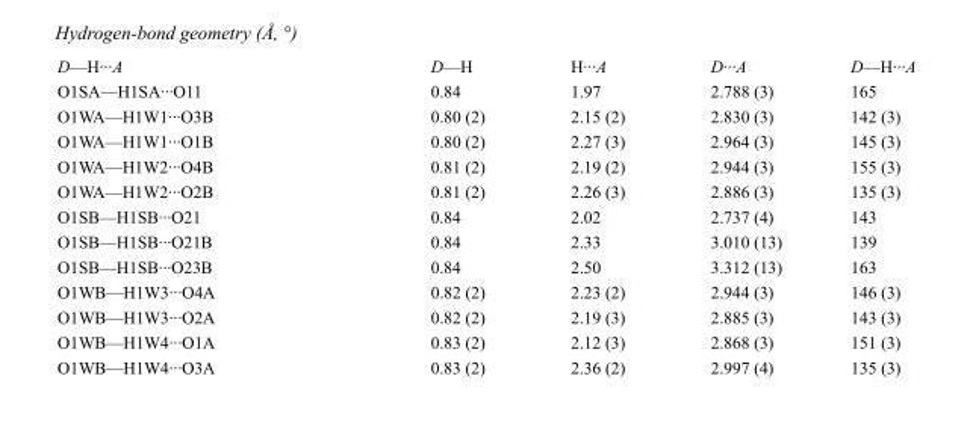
<table><tbody><tr><td>D—H···A</td><td>D—H</td><td>H···A</td><td>D···A</td><td>D—H···A</td></tr><tr><td>O1SA—H1SA···O11</td><td>0.84</td><td>1.97</td><td>2.788 (3)</td><td>165</td></tr><tr><td>O1WA—H1W1···O3B</td><td>0.80 (2)</td><td>2.15 (2)</td><td>2.830 (3)</td><td>142 (3)</td></tr><tr><td>O1WA—H1W1···O1B</td><td>0.80 (2)</td><td>2.27 (3)</td><td>2.964 (3)</td><td>145 (3)</td></tr><tr><td>O1WA—H1W2···O4B</td><td>0.81 (2)</td><td>2.19 (2)</td><td>2.944 (3)</td><td>155 (3)</td></tr><tr><td>O1WA—H1W2···O2B</td><td>0.81 (2)</td><td>2.26 (3)</td><td>2.886 (3)</td><td>135 (3)</td></tr><tr><td>O1SB—H1SB···O21</td><td>0.84</td><td>2.02</td><td>2.737 (4)</td><td>143</td></tr><tr><td>O1SB—H1SB···O21B</td><td>0.84</td><td>2.33</td><td>3.010 (13)</td><td>139</td></tr><tr><td>O1SB—H1SB···O23B</td><td>0.84</td><td>2.50</td><td>3.312 (13)</td><td>163</td></tr><tr><td>O1WB—H1W3···O4A</td><td>0.82 (2)</td><td>2.23 (2)</td><td>2.944 (3)</td><td>146 (3)</td></tr><tr><td>O1WB—H1W3···O2A</td><td>0.82 (2)</td><td>2.19 (3)</td><td>2.885 (3)</td><td>143 (3)</td></tr><tr><td>O1WB—H1W4···O1A</td><td>0.83 (2)</td><td>2.12 (3)</td><td>2.868 (3)</td><td>151 (3)</td></tr><tr><td>O1WB—H1W4···O3A</td><td>0.83 (2)</td><td>2.36 (2)</td><td>2.997 (4)</td><td>135 (3)</td></tr></tbody></table>